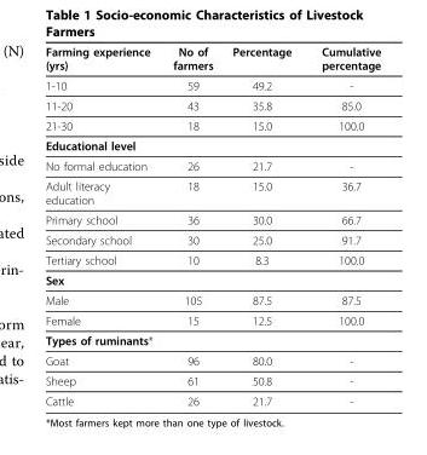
<table><thead><tr><td>Farming experience (yrs)</td><td>No of farmers</td><td>Percentage</td><td>Cumulative percentage</td></tr></thead><tbody><tr><td>1-10</td><td>59</td><td>49.2</td><td>-</td></tr><tr><td>11-20</td><td>43</td><td>35.8</td><td>85.0</td></tr><tr><td>21-30</td><td>18</td><td>15.0</td><td>100.0</td></tr><tr><td colspan="4">Educational level</td></tr><tr><td>No formal education</td><td>26</td><td>21.7</td><td>-</td></tr><tr><td>Adult literacy education</td><td>18</td><td>15.0</td><td>36.7</td></tr><tr><td>Primary school</td><td>36</td><td>30.0</td><td>66.7</td></tr><tr><td>Secondary school</td><td>30</td><td>25.0</td><td>91.7</td></tr><tr><td>Tertiary school</td><td>10</td><td>8.3</td><td>100.0</td></tr><tr><td colspan="4">Sex</td></tr><tr><td>Male</td><td>105</td><td>87.5</td><td>87.5</td></tr><tr><td>Female</td><td>15</td><td>12.5</td><td>100.0</td></tr><tr><td colspan="4">Types of ruminants*</td></tr><tr><td>Goat</td><td>96</td><td>80.0</td><td>-</td></tr><tr><td>Sheep</td><td>61</td><td>50.8</td><td>-</td></tr><tr><td>Cattle</td><td>26</td><td>21.7</td><td>-</td></tr></tbody></table>